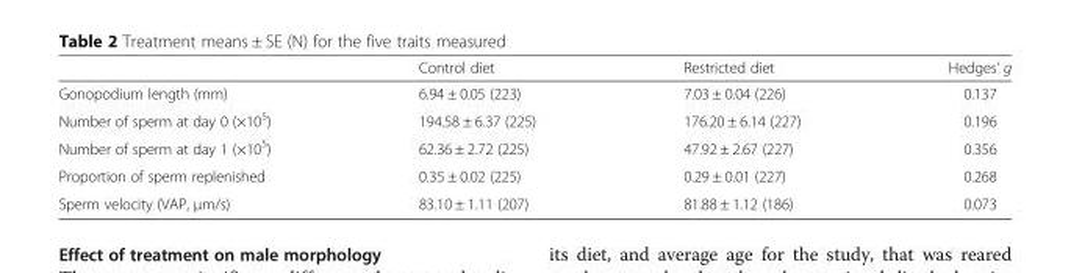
<table><thead><tr><td></td><td>Control diet</td><td>Restricted diet</td><td>Hedges’ g</td></tr></thead><tbody><tr><td>Gonopodium length (mm)</td><td>6.94 ± 0.05 (223)</td><td>7.03 ± 0.04 (226)</td><td>0.137</td></tr><tr><td>Number of sperm at day 0 (×10<sup>5</sup>)</td><td>194.58 ± 6.37 (225)</td><td>176.20 ± 6.14 (227)</td><td>0.196</td></tr><tr><td>Number of sperm at day 1 (×10<sup>5</sup>)</td><td>62.36 ± 2.72 (225)</td><td>47.92 ± 2.67 (227)</td><td>0.356</td></tr><tr><td>Proportion of sperm replenished</td><td>0.35 ± 0.02 (225)</td><td>0.29 ± 0.01 (227)</td><td>0.268</td></tr><tr><td>Sperm velocity (VAP, μm/s)</td><td>83.10 ± 1.11 (207)</td><td>81.88 ± 1.12 (186)</td><td>0.073</td></tr></tbody></table>